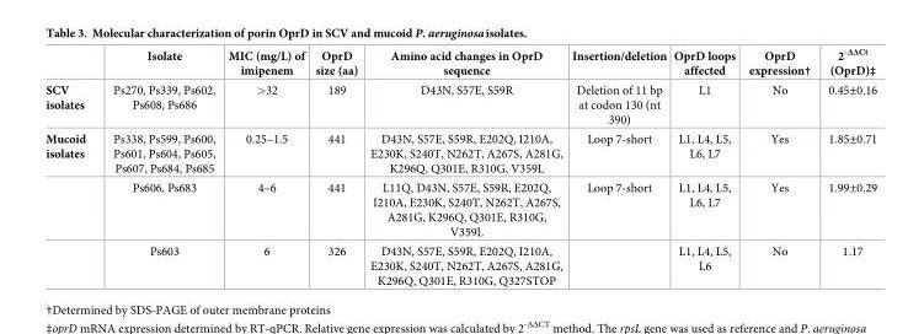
<table><thead><tr><td></td><td>Isolate</td><td>MIC (mg/L) of imipenem</td><td>OprD size (aa)</td><td>Amino acid changes in OprD sequence</td><td>Insertion/deletion</td><td>OprD loops affected</td><td>OprD expression†</td><td>2<sup>-ΔΔCt</sup> (OprD)‡</td></tr></thead><tbody><tr><td>SCV isolates</td><td>Ps270, Ps339, Ps602, Ps608, Ps686</td><td>&gt;32</td><td>189</td><td>D43N, S57E, S59R</td><td>Deletion of 11 bp at codon 130 (nt 390)</td><td>L1</td><td>No</td><td>0.45±0.16</td></tr><tr><td rowspan="3">Mucoid isolates</td><td>Ps338, Ps599, Ps600, Ps601, Ps604, Ps605, Ps607, Ps684, Ps685</td><td>0.25–1.5</td><td>441</td><td>D43N, S57E, S59R, E202Q, I210A, E230K, S240T, N262T, A267S, A281G, K296Q, Q301E, R310G, V359L</td><td>Loop 7-short</td><td>L1, L4, L5, L6, L7</td><td>Yes</td><td>1.85±0.71</td></tr><tr><td>Ps606, Ps683</td><td>4–6</td><td>441</td><td>L11Q, D43N, S57E, S59R, E202Q, I210A, E230K, S240T, N262T, A267S, A281G, K296Q, Q301E, R310G, V359L</td><td>Loop 7-short</td><td>L1, L4, L5, L6, L7</td><td>Yes</td><td>1.99±0.29</td></tr><tr><td>Ps603</td><td>6</td><td>326</td><td>D43N, S57E, S59R, E202Q, I210A, E230K, S240T, N262T, A267S, A281G, K296Q, Q301E, R310G, Q327STOP</td><td></td><td>L1, L4, L5, L6</td><td>No</td><td>1.17</td></tr></tbody></table>